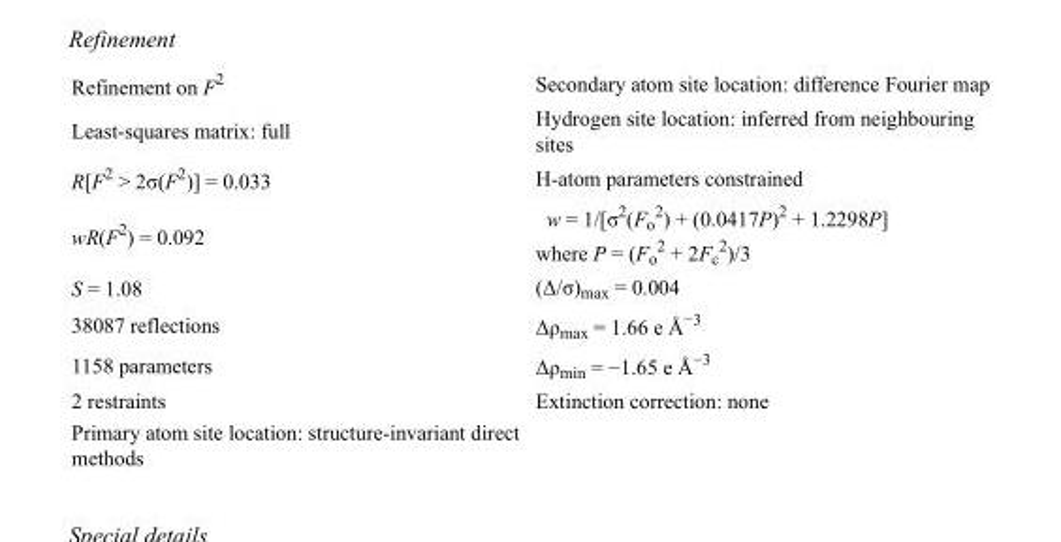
<table><tbody><tr><td>Refinement on F<sup>2</sup></td><td>Secondary atom site location: difference Fourier map</td></tr><tr><td>Least-squares matrix: full</td><td>Hydrogen site location: inferred from neighbouring sites</td></tr><tr><td>R[F<sup>2</sup> &gt; 2σ(F<sup>2</sup>)] = 0.033</td><td>H-atom parameters constrained</td></tr><tr><td>wR(F<sup>2</sup>) = 0.092</td><td>w = 1/[σ<sup>2</sup>(F<sub>o</sub> <sup>2</sup>) + (0.0417P)<sup>2</sup> + 1.2298P] where P = (F<sub>o</sub> <sup>2</sup> + 2F<sub>c</sub> <sup>2</sup>)/3</td></tr><tr><td>S = 1.08</td><td>(Δ/σ)<sub>max</sub> = 0.004</td></tr><tr><td>38087 reflections</td><td>Δρ<sub>max</sub> = 1.66 e Å<sup>−3</sup></td></tr><tr><td>1158 parameters</td><td>Δρ<sub>min</sub> = −1.65 e Å<sup>−3</sup></td></tr><tr><td>2 restraints</td><td>Extinction correction: none</td></tr><tr><td>Primary atom site location: structure-invariant direct methods</td><td></td></tr></tbody></table>